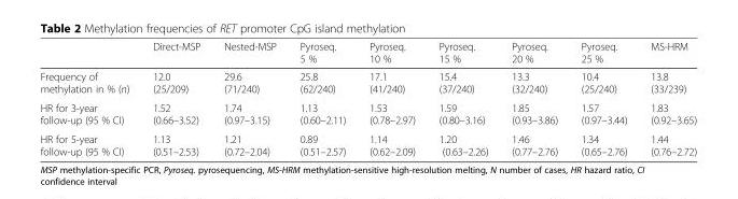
<table><thead><tr><td></td><td>Direct-MSP</td><td>Nested-MSP</td><td>Pyroseq. 5 %</td><td>Pyroseq. 10 %</td><td>Pyroseq. 15 %</td><td>Pyroseq. 20 %</td><td>Pyroseq. 25 %</td><td>MS-HRM</td></tr></thead><tbody><tr><td>Frequency of methylation in % (n)</td><td>12.0 (25/209)</td><td>29.6 (71/240)</td><td>25.8 (62/240)</td><td>17.1 (41/240)</td><td>15.4 (37/240)</td><td>13.3 (32/240)</td><td>10.4 (25/240)</td><td>13.8 (33/239)</td></tr><tr><td>HR for 3-year follow-up (95 % CI)</td><td>1.52 (0.66–3.52)</td><td>1.74 (0.97–3.15)</td><td>1.13 (0.60–2.11)</td><td>1.53 (0.78–2.97)</td><td>1.59 (0.80–3.16)</td><td>1.85 (0.93–3.86)</td><td>1.57 (0.97–3.44)</td><td>1.83 (0.92–3.65)</td></tr><tr><td>HR for 5-year follow-up (95 % CI)</td><td>1.13 (0.51–2.53)</td><td>1.21 (0.72–2.04)</td><td>0.89 (0.51–2.57)</td><td>1.14 (0.62–2.09)</td><td>1.20 (0.63–2.26)</td><td>1.46 (0.77–2.76)</td><td>1.34 (0.65–2.76)</td><td>1.44 (0.76–2.72)</td></tr></tbody></table>